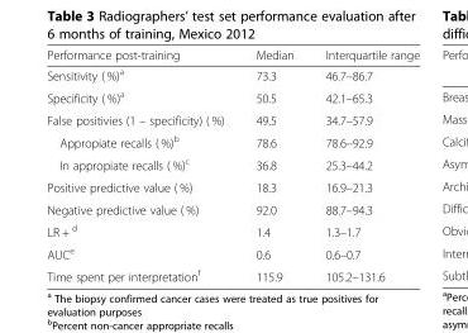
<table><thead><tr><td>Performance post-training</td><td>Median</td><td>Interquartile range</td></tr></thead><tbody><tr><td>Sensitivity ( %)<sup>a</sup></td><td>73.3</td><td>46.7–86.7</td></tr><tr><td>Specificity ( %)<sup>a</sup></td><td>50.5</td><td>42.1–65.3</td></tr><tr><td>False positivies (1 – specificity) ( %)</td><td>49.5</td><td>34.7–57.9</td></tr><tr><td>Appropiate recalls ( %)<sup>b</sup></td><td>78.6</td><td>78.6–92.9</td></tr><tr><td>In appropiate recalls ( %)<sup>c</sup></td><td>36.8</td><td>25.3–44.2</td></tr><tr><td>Positive predictive value ( %)</td><td>18.3</td><td>16.9–21.3</td></tr><tr><td>Negative predictive value ( %)</td><td>92.0</td><td>88.7–94.3</td></tr><tr><td>LR + <sup>d</sup></td><td>1.4</td><td>1.3–1.7</td></tr><tr><td>AUC<sup>e</sup></td><td>0.6</td><td>0.6–0.7</td></tr><tr><td>Time spent per interpretation<sup>f</sup></td><td>115.9</td><td>105.2–131.6</td></tr></tbody></table>